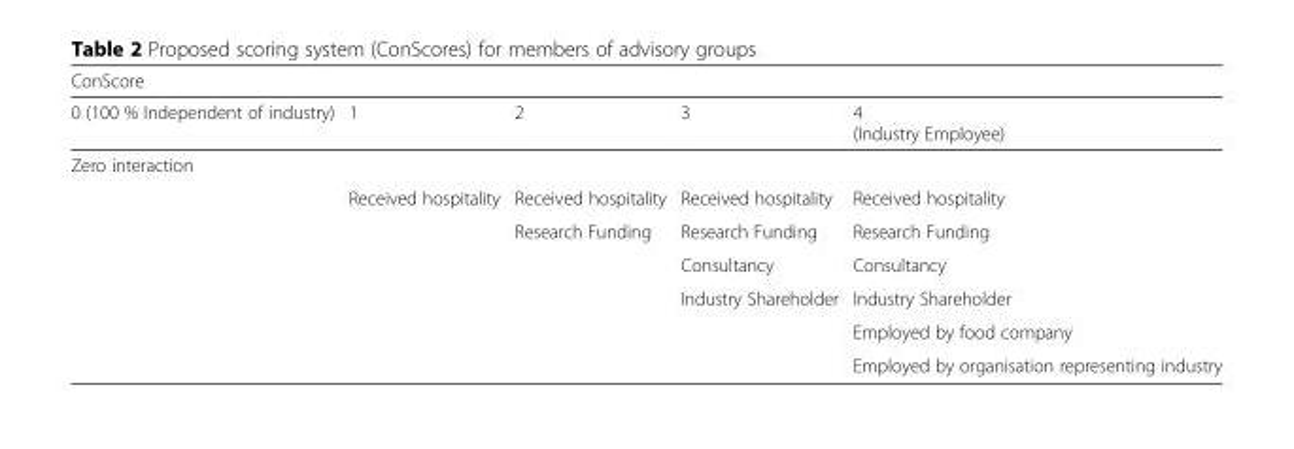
<table><thead><tr><td colspan="5">ConScore</td></tr><tr><td>0 (100 % Independent of industry)</td><td>1</td><td>2</td><td>3</td><td>4 (Industry Employee)</td></tr></thead><tbody><tr><td colspan="5">Zero interaction</td></tr><tr><td></td><td>Received hospitality</td><td>Received hospitality</td><td>Received hospitality</td><td>Received hospitality</td></tr><tr><td></td><td></td><td>Research Funding</td><td>Research Funding</td><td>Research Funding</td></tr><tr><td></td><td></td><td></td><td>Consultancy</td><td>Consultancy</td></tr><tr><td></td><td></td><td></td><td>Industry Shareholder</td><td>Industry Shareholder</td></tr><tr><td></td><td></td><td></td><td></td><td>Employed by food company</td></tr><tr><td></td><td></td><td></td><td></td><td>Employed by organisation representing industry</td></tr></tbody></table>